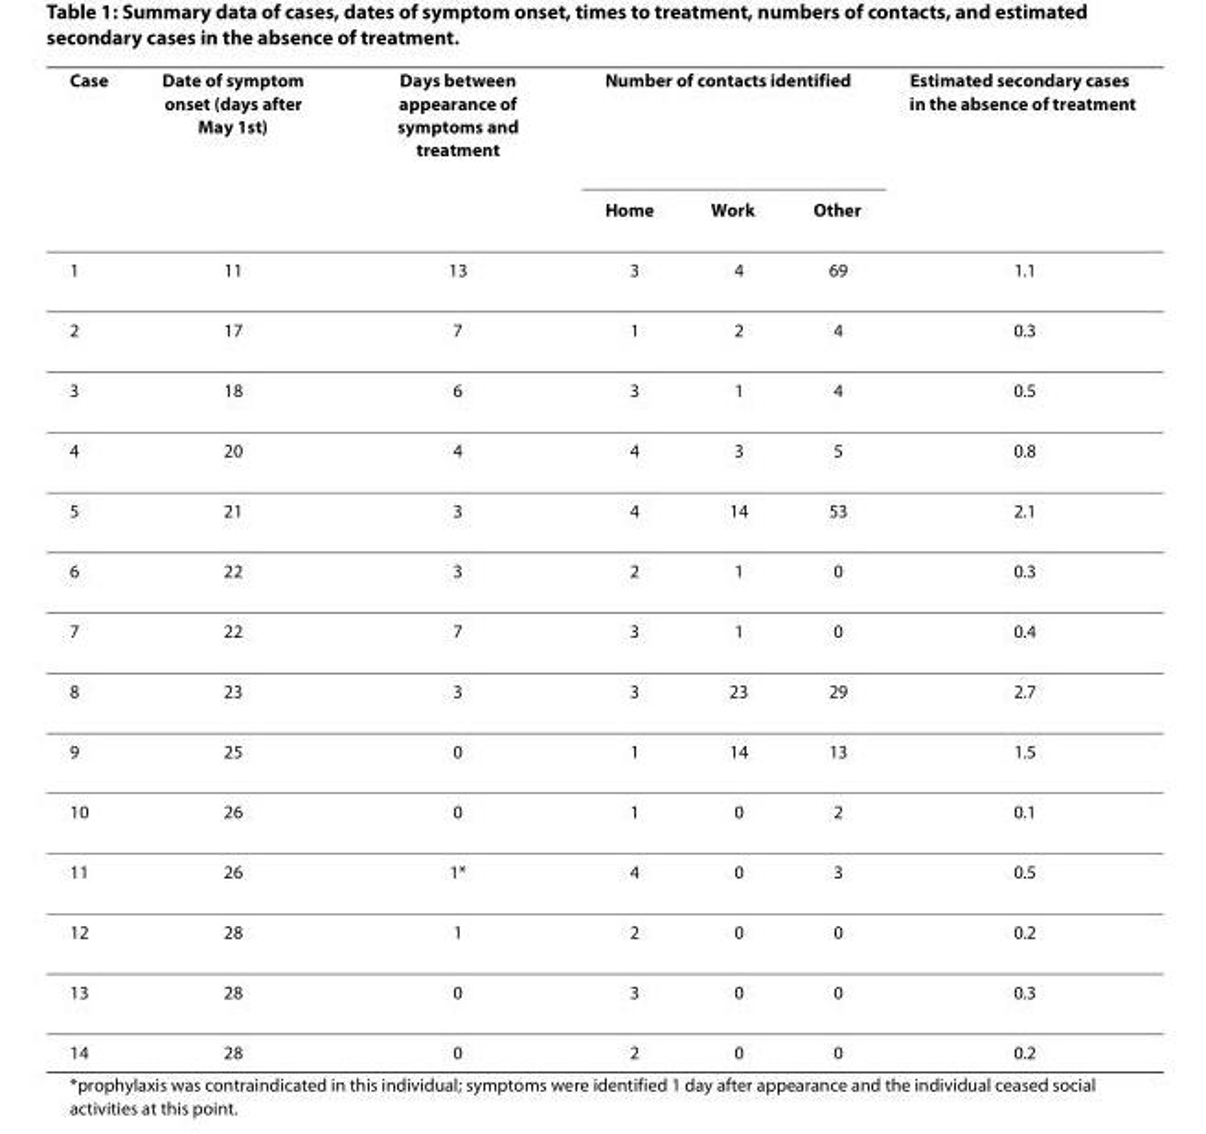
<table><thead><tr><td rowspan="2">Case</td><td rowspan="2">Date of symptom onset (days after May 1st)</td><td rowspan="2">Days between appearance of symptoms and treatment</td><td colspan="3">Number of contacts identified</td><td rowspan="2">Estimated secondary cases in the absence of treatment</td></tr><tr><td>Home</td><td>Work</td><td>Other</td></tr></thead><tbody><tr><td>1</td><td>11</td><td>13</td><td>3</td><td>4</td><td>69</td><td>1.1</td></tr><tr><td>2</td><td>17</td><td>7</td><td>1</td><td>2</td><td>4</td><td>0.3</td></tr><tr><td>3</td><td>18</td><td>6</td><td>3</td><td>1</td><td>4</td><td>0.5</td></tr><tr><td>4</td><td>20</td><td>4</td><td>4</td><td>3</td><td>5</td><td>0.8</td></tr><tr><td>5</td><td>21</td><td>3</td><td>4</td><td>14</td><td>53</td><td>2.1</td></tr><tr><td>6</td><td>22</td><td>3</td><td>2</td><td>1</td><td>0</td><td>0.3</td></tr><tr><td>7</td><td>22</td><td>7</td><td>3</td><td>1</td><td>0</td><td>0.4</td></tr><tr><td>8</td><td>23</td><td>3</td><td>3</td><td>23</td><td>29</td><td>2.7</td></tr><tr><td>9</td><td>25</td><td>0</td><td>1</td><td>14</td><td>13</td><td>1.5</td></tr><tr><td>10</td><td>26</td><td>0</td><td>1</td><td>0</td><td>2</td><td>0.1</td></tr><tr><td>11</td><td>26</td><td>1*</td><td>4</td><td>0</td><td>3</td><td>0.5</td></tr><tr><td>12</td><td>28</td><td>1</td><td>2</td><td>0</td><td>0</td><td>0.2</td></tr><tr><td>13</td><td>28</td><td>0</td><td>3</td><td>0</td><td>0</td><td>0.3</td></tr><tr><td>14</td><td>28</td><td>0</td><td>2</td><td>0</td><td>0</td><td>0.2</td></tr></tbody></table>